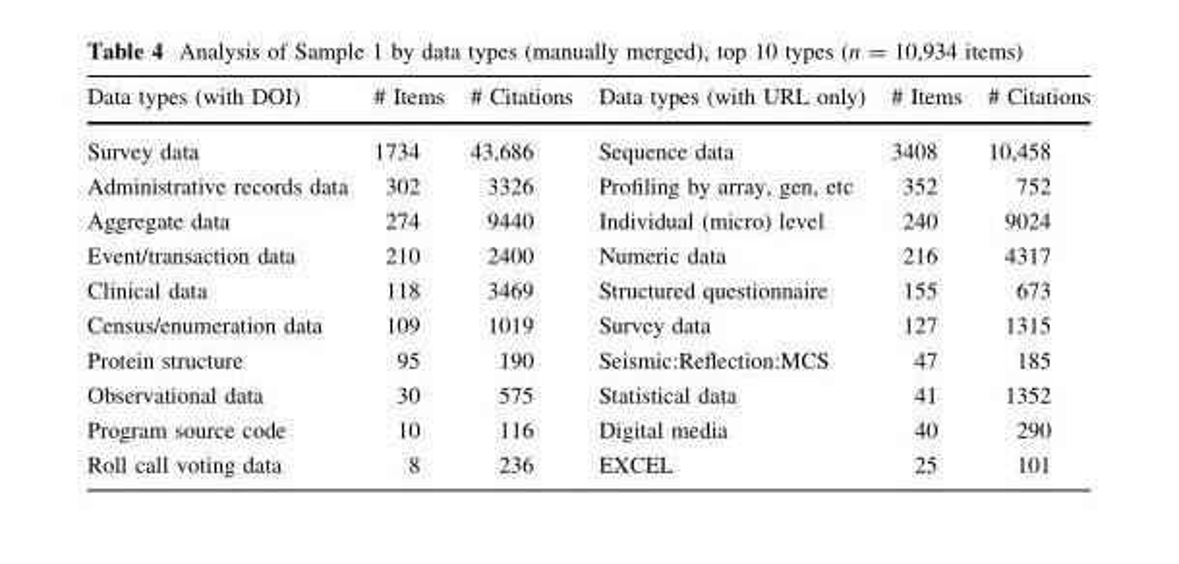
<table><thead><tr><td>Data types (with DOI)</td><td># Items</td><td># Citations</td><td>Data types (with URL only)</td><td># Items</td><td># Citations</td></tr></thead><tbody><tr><td>Survey data</td><td>1734</td><td>43,686</td><td>Sequence data</td><td>3408</td><td>10,458</td></tr><tr><td>Administrative records data</td><td>302</td><td>3326</td><td>Profiling by array, gen, etc</td><td>352</td><td>752</td></tr><tr><td>Aggregate data</td><td>274</td><td>9440</td><td>Individual (micro) level</td><td>240</td><td>9024</td></tr><tr><td>Event/transaction data</td><td>210</td><td>2400</td><td>Numeric data</td><td>216</td><td>4317</td></tr><tr><td>Clinical data</td><td>118</td><td>3469</td><td>Structured questionnaire</td><td>155</td><td>673</td></tr><tr><td>Census/enumeration data</td><td>109</td><td>1019</td><td>Survey data</td><td>127</td><td>1315</td></tr><tr><td>Protein structure</td><td>95</td><td>190</td><td>Seismic:Reflection:MCS</td><td>47</td><td>185</td></tr><tr><td>Observational data</td><td>30</td><td>575</td><td>Statistical data</td><td>41</td><td>1352</td></tr><tr><td>Program source code</td><td>10</td><td>116</td><td>Digital media</td><td>40</td><td>290</td></tr><tr><td>Roll call voting data</td><td>8</td><td>236</td><td>EXCEL</td><td>25</td><td>101</td></tr></tbody></table>